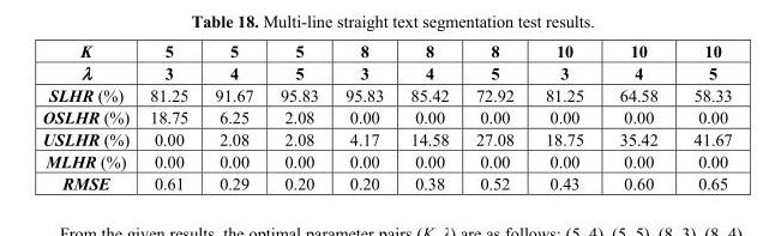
<table><thead><tr><td rowspan="2">K λ</td><td rowspan="2">5 3</td><td rowspan="2">5 4</td><td rowspan="2">5 5</td><td rowspan="2">8 3</td><td rowspan="2">8 4</td><td rowspan="2">8 5</td><td rowspan="2">10 3</td><td rowspan="2">10 4</td><td rowspan="2">10 5</td></tr><tr></tr></thead><tbody><tr><td>SLHR (%)</td><td>81.25</td><td>91.67</td><td>95.83</td><td>95.83</td><td>85.42</td><td>72.92</td><td>81.25</td><td>64.58</td><td>58.33</td></tr><tr><td>OSLHR (%)</td><td>18.75</td><td>6.25</td><td>2.08</td><td>0.00</td><td>0.00</td><td>0.00</td><td>0.00</td><td>0.00</td><td>0.00</td></tr><tr><td>USLHR (%)</td><td>0.00</td><td>2.08</td><td>2.08</td><td>4.17</td><td>14.58</td><td>27.08</td><td>18.75</td><td>35.42</td><td>41.67</td></tr><tr><td>MLHR (%)</td><td>0.00</td><td>0.00</td><td>0.00</td><td>0.00</td><td>0.00</td><td>0.00</td><td>0.00</td><td>0.00</td><td>0.00</td></tr><tr><td>RMSE</td><td>0.61</td><td>0.29</td><td>0.20</td><td>0.20</td><td>0.38</td><td>0.52</td><td>0.43</td><td>0.60</td><td>0.65</td></tr></tbody></table>